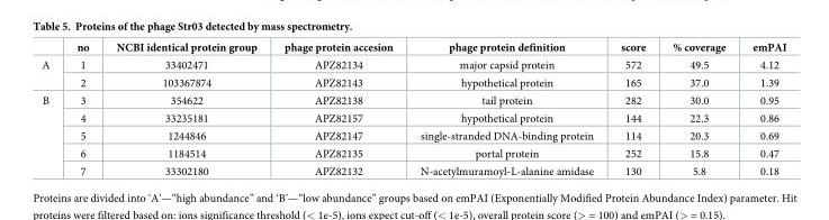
<table><thead><tr><td></td><td>no</td><td>NCBI identical protein group</td><td>phage protein accesion</td><td>phage protein definition</td><td>score</td><td>% coverage</td><td>emPAI</td></tr></thead><tbody><tr><td rowspan="2">A</td><td>1</td><td>33402471</td><td>APZ82134</td><td>major capsid protein</td><td>572</td><td>49.5</td><td>4.12</td></tr><tr><td>2</td><td>103367874</td><td>APZ82143</td><td>hypothetical protein</td><td>165</td><td>37.0</td><td>1.39</td></tr><tr><td rowspan="5">B</td><td>3</td><td>354622</td><td>APZ82138</td><td>tail protein</td><td>282</td><td>30.0</td><td>0.95</td></tr><tr><td>4</td><td>33235181</td><td>APZ82157</td><td>hypothetical protein</td><td>144</td><td>22.3</td><td>0.86</td></tr><tr><td>5</td><td>1244846</td><td>APZ82147</td><td>single-stranded DNA-binding protein</td><td>114</td><td>20.3</td><td>0.69</td></tr><tr><td>6</td><td>1184514</td><td>APZ82135</td><td>portal protein</td><td>252</td><td>15.8</td><td>0.47</td></tr><tr><td>7</td><td>33302180</td><td>APZ82132</td><td>N-acetylmuramoyl-L-alanine amidase</td><td>130</td><td>5.8</td><td>0.18</td></tr></tbody></table>